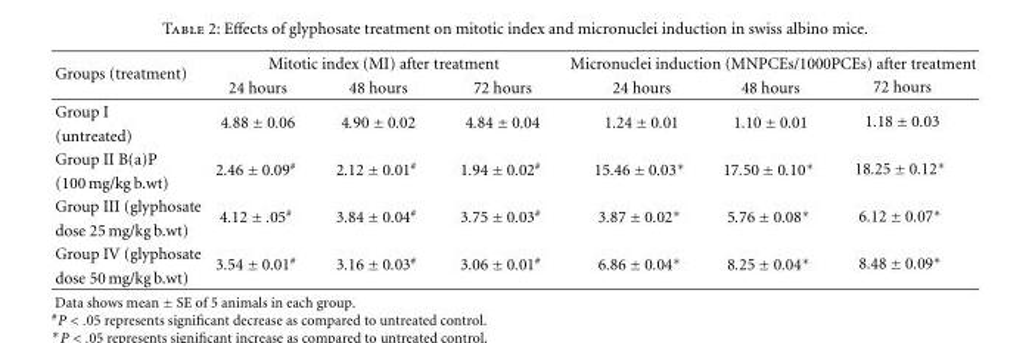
<table><thead><tr><td rowspan="2">Groups (treatment)</td><td colspan="3">Mitotic index (MI) after treatment</td><td colspan="3">Micronuclei induction (MNPCEs/1000PCEs) after treatment</td></tr><tr><td>24 hours</td><td>48 hours</td><td>72 hours</td><td>24 hours</td><td>48 hours</td><td>72 hours</td></tr></thead><tbody><tr><td>Group I</td><td rowspan="2">4.88 ± 0.06</td><td rowspan="2">4.90 ± 0.02</td><td rowspan="2">4.84 ± 0.04</td><td rowspan="2">1.24 ± 0.01</td><td rowspan="2">1.10 ± 0.01</td><td rowspan="2">1.18 ± 0.03</td></tr><tr><td>(untreated)</td></tr><tr><td>Group II B(a)P</td><td rowspan="2">2.46 ± 0.09<sup>#</sup></td><td rowspan="2">2.12 ± 0.01<sup>#</sup></td><td rowspan="2">1.94 ± 0.02<sup>#</sup></td><td rowspan="2">15.46 ± 0.03∗</td><td rowspan="2">17.50 ± 0.10∗</td><td rowspan="2">18.25 ± 0.12∗</td></tr><tr><td>(100 mg/kg b.wt)</td></tr><tr><td>Group III (glyphosate</td><td rowspan="2">4.12 ± .05<sup>#</sup></td><td rowspan="2">3.84 ± 0.04<sup>#</sup></td><td rowspan="2">3.75 ± 0.03<sup>#</sup></td><td rowspan="2">3.87 ± 0.02∗</td><td rowspan="2">5.76 ± 0.08∗</td><td rowspan="2">6.12 ± 0.07∗</td></tr><tr><td>dose 25 mg/kg b.wt)</td></tr><tr><td>Group IV (glyphosate</td><td rowspan="2">3.54 ± 0.01<sup>#</sup></td><td rowspan="2">3.16 ± 0.03<sup>#</sup></td><td rowspan="2">3.06 ± 0.01<sup>#</sup></td><td rowspan="2">6.86 ± 0.04∗</td><td rowspan="2">8.25 ± 0.04∗</td><td rowspan="2">8.48 ± 0.09∗</td></tr><tr><td>dose 50 mg/kg b.wt)</td></tr></tbody></table>